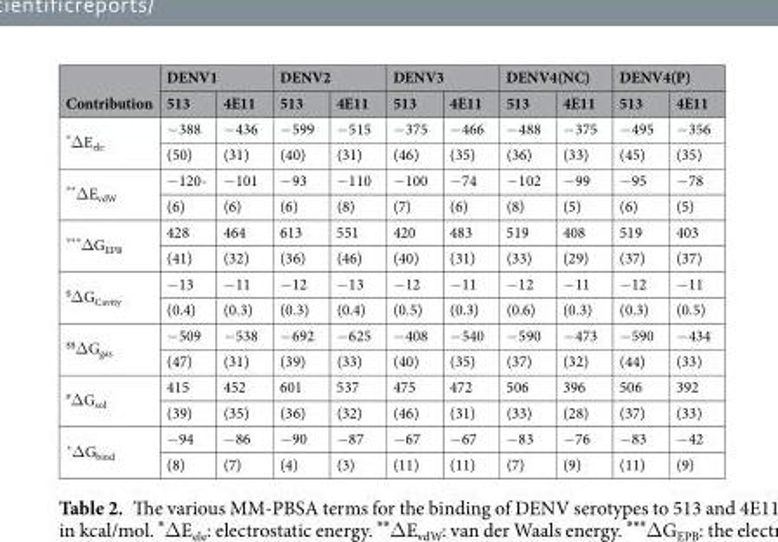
<table><thead><tr><td rowspan="2">Contribution</td><td colspan="2">DENV1</td><td colspan="2">DENV2</td><td colspan="2">DENV3</td><td colspan="2">DENV4(NC)</td><td colspan="2">DENV4(P)</td></tr><tr><td>513</td><td>4E11</td><td>513</td><td>4E11</td><td>513</td><td>4E11</td><td>513</td><td>4E11</td><td>513</td><td>4E11</td></tr></thead><tbody><tr><td rowspan="2">*ΔE<sub>ele</sub></td><td>−388</td><td>−436</td><td>−599</td><td>−515</td><td>−375</td><td>−466</td><td>−488</td><td>−375</td><td>−495</td><td>−356</td></tr><tr><td>(50)</td><td>(31)</td><td>(40)</td><td>(31)</td><td>(46)</td><td>(35)</td><td>(36)</td><td>(33)</td><td>(45)</td><td>(35)</td></tr><tr><td rowspan="2">**ΔE<sub>vdW</sub></td><td>−120-</td><td>−101</td><td>−93</td><td>−110</td><td>−100</td><td>−74</td><td>−102</td><td>−99</td><td>−95</td><td>−78</td></tr><tr><td>(6)</td><td>(6)</td><td>(6)</td><td>(8)</td><td>(7)</td><td>(6)</td><td>(8)</td><td>(5)</td><td>(6)</td><td>(5)</td></tr><tr><td rowspan="2">***ΔG<sub>EPB</sub></td><td>428</td><td>464</td><td>613</td><td>551</td><td>420</td><td>483</td><td>519</td><td>408</td><td>519</td><td>403</td></tr><tr><td>(41)</td><td>(32)</td><td>(36)</td><td>(46)</td><td>(40)</td><td>(31)</td><td>(33)</td><td>(29)</td><td>(37)</td><td>(37)</td></tr><tr><td rowspan="2"><sup>$</sup>ΔG<sub>Cavity</sub></td><td>−13</td><td>−11</td><td>−12</td><td>−13</td><td>−12</td><td>−11</td><td>−12</td><td>−11</td><td>−12</td><td>−11</td></tr><tr><td>(0.4)</td><td>(0.3)</td><td>(0.3)</td><td>(0.4)</td><td>(0.5)</td><td>(0.3)</td><td>(0.6)</td><td>(0.3)</td><td>(0.3)</td><td>(0.5)</td></tr><tr><td rowspan="2"><sup>$$</sup>ΔG<sub>gas</sub></td><td>−509</td><td>−538</td><td>−692</td><td>−625</td><td>−408</td><td>−540</td><td>−590</td><td>−473</td><td>−590</td><td>−434</td></tr><tr><td>(47)</td><td>(31)</td><td>(39)</td><td>(33)</td><td>(40)</td><td>(35)</td><td>(37)</td><td>(32)</td><td>(44)</td><td>(33)</td></tr><tr><td rowspan="2"><sup>#</sup>ΔG<sub>sol</sub></td><td>415</td><td>452</td><td>601</td><td>537</td><td>475</td><td>472</td><td>506</td><td>396</td><td>506</td><td>392</td></tr><tr><td>(39)</td><td>(35)</td><td>(36)</td><td>(32)</td><td>(46)</td><td>(31)</td><td>(33)</td><td>(28)</td><td>(37)</td><td>(33)</td></tr><tr><td rowspan="2">ˆΔG<sub>bind</sub></td><td>−94</td><td>−86</td><td>−90</td><td>−87</td><td>−67</td><td>−67</td><td>−83</td><td>−76</td><td>−83</td><td>−42</td></tr><tr><td>(8)</td><td>(7)</td><td>(4)</td><td>(3)</td><td>(11)</td><td>(11)</td><td>(7)</td><td>(9)</td><td>(11)</td><td>(9)</td></tr></tbody></table>